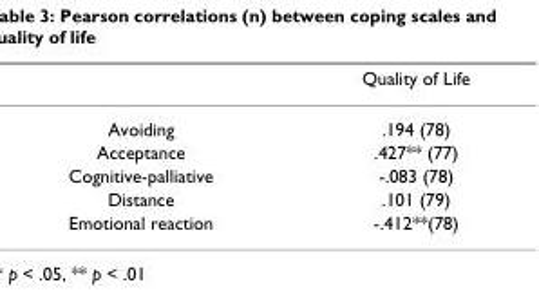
<table><thead><tr><td></td><td>Quality of Life</td></tr></thead><tbody><tr><td>Avoiding</td><td>.194 (78)</td></tr><tr><td>Acceptance</td><td>.427** (77)</td></tr><tr><td>Cognitive-palliative</td><td>-.083 (78)</td></tr><tr><td>Distance</td><td>.101 (79)</td></tr><tr><td>Emotional reaction</td><td>-.412**(78)</td></tr></tbody></table>